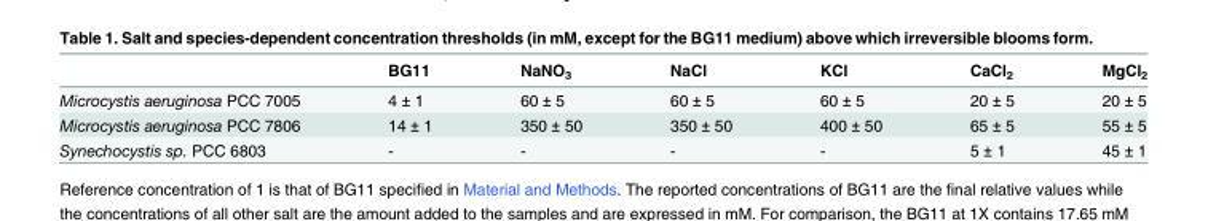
<table><thead><tr><td></td><td>BG11</td><td>NaNO<sub>3</sub></td><td>NaCl</td><td>KCl</td><td>CaCl<sub>2</sub></td><td>MgCl<sub>2</sub></td></tr></thead><tbody><tr><td>Microcystis aeruginosa PCC 7005</td><td>4 ± 1</td><td>60 ± 5</td><td>60 ± 5</td><td>60 ± 5</td><td>20 ± 5</td><td>20 ± 5</td></tr><tr><td>Microcystis aeruginosa PCC 7806</td><td>14 ± 1</td><td>350 ± 50</td><td>350 ± 50</td><td>400 ± 50</td><td>65 ± 5</td><td>55 ± 5</td></tr><tr><td>Synechocystis sp. PCC 6803</td><td>-</td><td>-</td><td>-</td><td>-</td><td>5 ± 1</td><td>45 ± 1</td></tr></tbody></table>